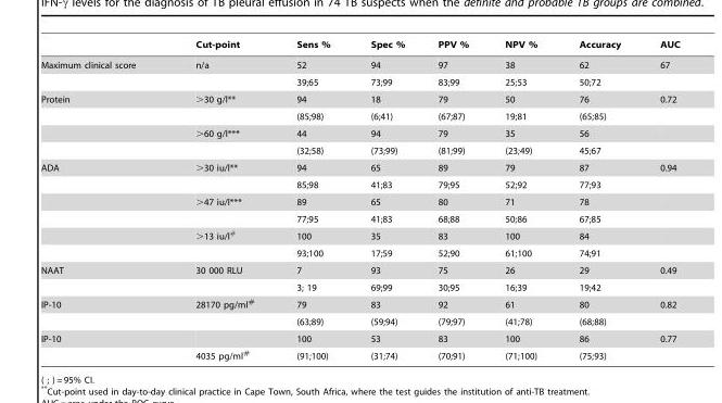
<table><thead><tr><td></td><td>Cut-point</td><td>Sens %</td><td>Spec %</td><td>PPV %</td><td>NPV %</td><td>Accuracy</td><td>AUC</td></tr></thead><tbody><tr><td rowspan="2">Maximum clinical score</td><td>n/a</td><td>52</td><td>94</td><td>97</td><td>38</td><td>62</td><td>67</td></tr><tr><td></td><td>39;65</td><td>73;99</td><td>83;99</td><td>25;53</td><td>50;72</td><td></td></tr><tr><td rowspan="4">Protein</td><td>&gt;30 g/l**</td><td>94</td><td>18</td><td>79</td><td>50</td><td>76</td><td>0.72</td></tr><tr><td></td><td>(85;98)</td><td>(6;41)</td><td>(67;87)</td><td>19;81</td><td>(65;85)</td><td></td></tr><tr><td>&gt;60 g/l***</td><td>44</td><td>94</td><td>79</td><td>35</td><td>56</td><td></td></tr><tr><td></td><td>(32;58)</td><td>(73;99)</td><td>(81;99)</td><td>(23;49)</td><td>45;67</td><td></td></tr><tr><td rowspan="6">ADA</td><td>&gt;30 iu/l**</td><td>94</td><td>65</td><td>89</td><td>79</td><td>87</td><td>0.94</td></tr><tr><td></td><td>85;98</td><td>41;83</td><td>79;95</td><td>52;92</td><td>77;93</td><td></td></tr><tr><td>&gt;47 iu/l***</td><td>89</td><td>65</td><td>80</td><td>71</td><td>78</td><td></td></tr><tr><td></td><td>77;95</td><td>41;83</td><td>68;88</td><td>50;86</td><td>67;85</td><td></td></tr><tr><td>&gt;13 iu/l#</td><td>100</td><td>35</td><td>83</td><td>100</td><td>84</td><td></td></tr><tr><td></td><td>93;100</td><td>17;59</td><td>52;90</td><td>61;100</td><td>74;91</td><td></td></tr><tr><td rowspan="2">NAAT</td><td>30 000 RLU</td><td>7</td><td>93</td><td>75</td><td>26</td><td>29</td><td>0.49</td></tr><tr><td></td><td>3; 19</td><td>69;99</td><td>30;95</td><td>16;39</td><td>19;42</td><td></td></tr><tr><td rowspan="2">IP-10</td><td>28170 pg/ml#</td><td>79</td><td>83</td><td>92</td><td>61</td><td>80</td><td>0.82</td></tr><tr><td></td><td>(63;89)</td><td>(59;94)</td><td>(79;97)</td><td>(41;78)</td><td>(68;88)</td><td></td></tr><tr><td rowspan="2">IP-10</td><td></td><td>100</td><td>53</td><td>83</td><td>100</td><td>86</td><td>0.77</td></tr><tr><td>4035 pg/ml#</td><td>(91;100)</td><td>(31;74)</td><td>(70;91)</td><td>(71;100)</td><td>(75;93)</td><td></td></tr></tbody></table>